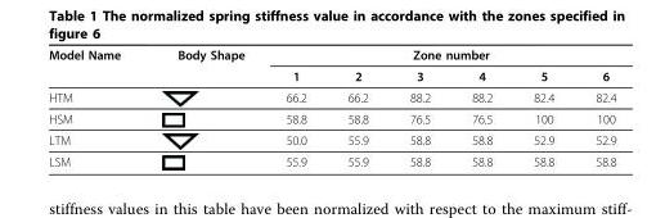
<table><thead><tr><td rowspan="2">Model Name</td><td rowspan="2">Body Shape</td><td colspan="6">Zone number</td></tr><tr><td>1</td><td>2</td><td>3</td><td>4</td><td>5</td><td>6</td></tr></thead><tbody><tr><td>HTM</td><td></td><td>66.2</td><td>66.2</td><td>88.2</td><td>88.2</td><td>82.4</td><td>82.4</td></tr><tr><td>HSM</td><td></td><td>58.8</td><td>58.8</td><td>76.5</td><td>76.5</td><td>100</td><td>100</td></tr><tr><td>LTM</td><td></td><td>50.0</td><td>55.9</td><td>58.8</td><td>58.8</td><td>52.9</td><td>52.9</td></tr><tr><td>LSM</td><td></td><td>55.9</td><td>55.9</td><td>58.8</td><td>58.8</td><td>58.8</td><td>58.8</td></tr></tbody></table>